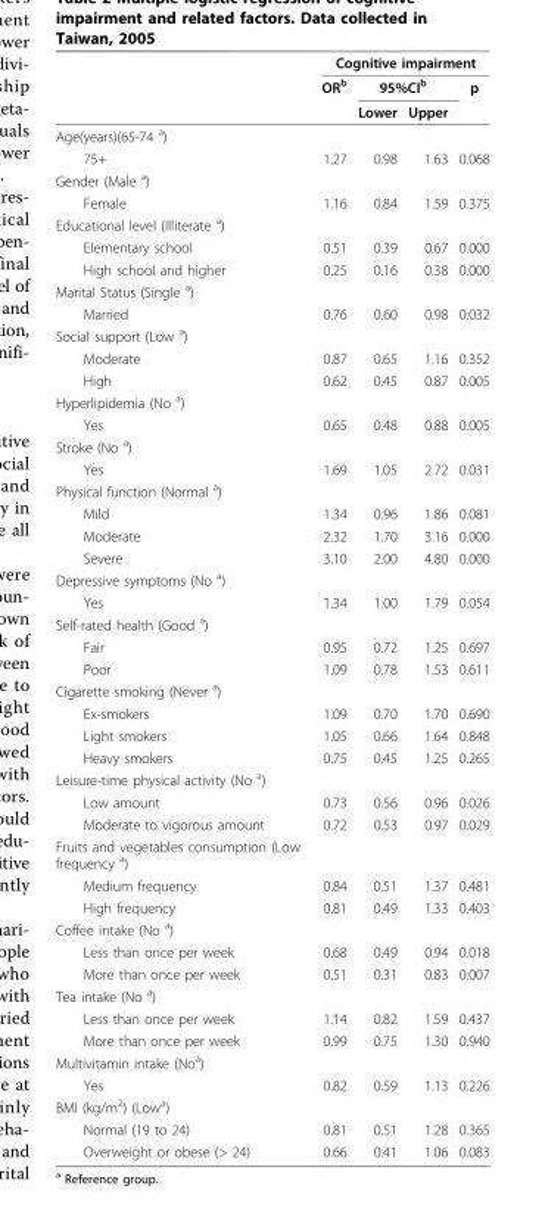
<table><thead><tr><td rowspan="3"></td><td colspan="4">Cognitive impairment</td></tr><tr><td rowspan="2">OR<sup>b</sup></td><td colspan="2">95%CI<sup>b</sup></td><td rowspan="2">p</td></tr><tr><td>Lower</td><td>Upper</td></tr></thead><tbody><tr><td colspan="5">Age(years)(65-74 <sup>a</sup>)</td></tr><tr><td>75+</td><td>1.27</td><td>0.98</td><td>1.63</td><td>0.068</td></tr><tr><td colspan="5">Gender (Male <sup>a</sup>)</td></tr><tr><td>Female</td><td>1.16</td><td>0.84</td><td>1.59</td><td>0.375</td></tr><tr><td colspan="5">Educational level (Illiterate <sup>a</sup>)</td></tr><tr><td>Elementary school</td><td>0.51</td><td>0.39</td><td>0.67</td><td>0.000</td></tr><tr><td>High school and higher</td><td>0.25</td><td>0.16</td><td>0.38</td><td>0.000</td></tr><tr><td colspan="5">Marital Status (Single <sup>a</sup>)</td></tr><tr><td>Married</td><td>0.76</td><td>0.60</td><td>0.98</td><td>0.032</td></tr><tr><td colspan="5">Social support (Low <sup>a</sup>)</td></tr><tr><td>Moderate</td><td>0.87</td><td>0.65</td><td>1.16</td><td>0.352</td></tr><tr><td>High</td><td>0.62</td><td>0.45</td><td>0.87</td><td>0.005</td></tr><tr><td colspan="5">Hyperlipidemia (No <sup>a</sup>)</td></tr><tr><td>Yes</td><td>0.65</td><td>0.48</td><td>0.88</td><td>0.005</td></tr><tr><td colspan="5">Stroke (No <sup>a</sup>)</td></tr><tr><td>Yes</td><td>1.69</td><td>1.05</td><td>2.72</td><td>0.031</td></tr><tr><td colspan="5">Physical function (Normal <sup>a</sup>)</td></tr><tr><td>Mild</td><td>1.34</td><td>0.96</td><td>1.86</td><td>0.081</td></tr><tr><td>Moderate</td><td>2.32</td><td>1.70</td><td>3.16</td><td>0.000</td></tr><tr><td>Severe</td><td>3.10</td><td>2.00</td><td>4.80</td><td>0.000</td></tr><tr><td colspan="5">Depressive symptoms (No <sup>a</sup>)</td></tr><tr><td>Yes</td><td>1.34</td><td>1.00</td><td>1.79</td><td>0.054</td></tr><tr><td colspan="5">Self-rated health (Good <sup>a</sup>)</td></tr><tr><td>Fair</td><td>0.95</td><td>0.72</td><td>1.25</td><td>0.697</td></tr><tr><td>Poor</td><td>1.09</td><td>0.78</td><td>1.53</td><td>0.611</td></tr><tr><td colspan="5">Cigarette smoking (Never <sup>a</sup>)</td></tr><tr><td>Ex-smokers</td><td>1.09</td><td>0.70</td><td>1.70</td><td>0.690</td></tr><tr><td>Light smokers</td><td>1.05</td><td>0.66</td><td>1.64</td><td>0.848</td></tr><tr><td>Heavy smokers</td><td>0.75</td><td>0.45</td><td>1.25</td><td>0.265</td></tr><tr><td colspan="5">Leisure-time physical activity (No <sup>a</sup>)</td></tr><tr><td>Low amount</td><td>0.73</td><td>0.56</td><td>0.96</td><td>0.026</td></tr><tr><td>Moderate to vigorous amount</td><td>0.72</td><td>0.53</td><td>0.97</td><td>0.029</td></tr><tr><td colspan="5">Fruits and vegetables consumption (Low frequency <sup>a</sup>)</td></tr><tr><td>Medium frequency</td><td>0.84</td><td>0.51</td><td>1.37</td><td>0.481</td></tr><tr><td>High frequency</td><td>0.81</td><td>0.49</td><td>1.33</td><td>0.403</td></tr><tr><td colspan="5">Coffee intake (No <sup>a</sup>)</td></tr><tr><td>Less than once per week</td><td>0.68</td><td>0.49</td><td>0.94</td><td>0.018</td></tr><tr><td>More than once per week</td><td>0.51</td><td>0.31</td><td>0.83</td><td>0.007</td></tr><tr><td colspan="5">Tea intake (No <sup>a</sup>)</td></tr><tr><td>Less than once per week</td><td>1.14</td><td>0.82</td><td>1.59</td><td>0.437</td></tr><tr><td>More than once per week</td><td>0.99</td><td>0.75</td><td>1.30</td><td>0.940</td></tr><tr><td colspan="5">Multivitamin intake (No<sup>a</sup>)</td></tr><tr><td>Yes</td><td>0.82</td><td>0.59</td><td>1.13</td><td>0.226</td></tr><tr><td colspan="5">BMI (kg/m<sup>2</sup>) (Low<sup>a</sup>)</td></tr><tr><td>Normal (19 to 24)</td><td>0.81</td><td>0.51</td><td>1.28</td><td>0.365</td></tr><tr><td>Overweight or obese (&gt; 24)</td><td>0.66</td><td>0.41</td><td>1.06</td><td>0.083</td></tr></tbody></table>